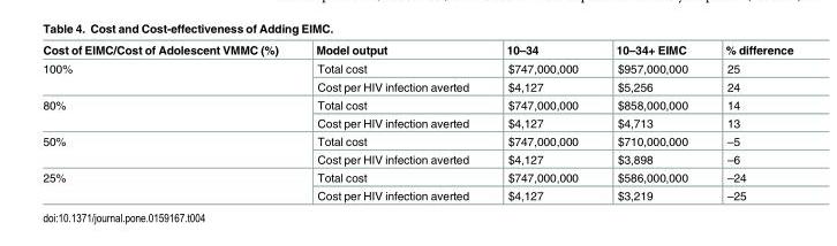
<table><thead><tr><td>Cost of EIMC/Cost of Adolescent VMMC (%)</td><td>Model output</td><td>10–34</td><td>10–34+ EIMC</td><td>% difference</td></tr></thead><tbody><tr><td rowspan="2">100%</td><td>Total cost</td><td>$747,000,000</td><td>$957,000,000</td><td>25</td></tr><tr><td>Cost per HIV infection averted</td><td>$4,127</td><td>$5,256</td><td>24</td></tr><tr><td rowspan="2">80%</td><td>Total cost</td><td>$747,000,000</td><td>$858,000,000</td><td>14</td></tr><tr><td>Cost per HIV infection averted</td><td>$4,127</td><td>$4,713</td><td>13</td></tr><tr><td rowspan="2">50%</td><td>Total cost</td><td>$747,000,000</td><td>$710,000,000</td><td>–5</td></tr><tr><td>Cost per HIV infection averted</td><td>$4,127</td><td>$3,898</td><td>–6</td></tr><tr><td rowspan="2">25%</td><td>Total cost</td><td>$747,000,000</td><td>$586,000,000</td><td>–24</td></tr><tr><td>Cost per HIV infection averted</td><td>$4,127</td><td>$3,219</td><td>–25</td></tr></tbody></table>